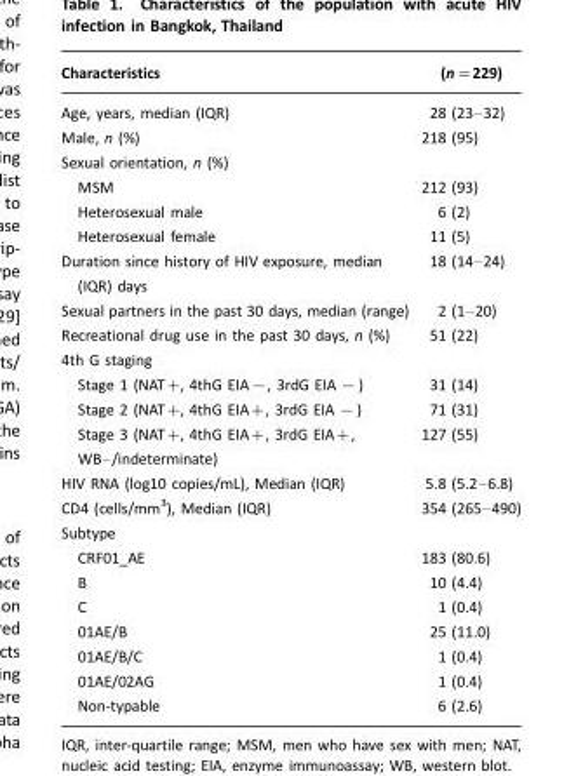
<table><thead><tr><td>Characteristics</td><td>(n=229)</td></tr></thead><tbody><tr><td>Age, years, median (IQR)</td><td>28 (23–32)</td></tr><tr><td>Male, n (%)</td><td>218 (95)</td></tr><tr><td colspan="2">Sexual orientation, n (%)</td></tr><tr><td>MSM</td><td>212 (93)</td></tr><tr><td>Heterosexual male</td><td>6 (2)</td></tr><tr><td>Heterosexual female</td><td>11 (5)</td></tr><tr><td>Duration since history of HIV exposure, median (IQR) days</td><td>18 (14–24)</td></tr><tr><td>Sexual partners in the past 30 days, median (range)</td><td>2 (1–20)</td></tr><tr><td>Recreational drug use in the past 30 days, n (%)</td><td>51 (22)</td></tr><tr><td colspan="2">4th G staging</td></tr><tr><td>Stage 1 (NAT+, 4thG EIA−, 3rdG EIA −)</td><td>31 (14)</td></tr><tr><td>Stage 2 (NAT+, 4thG EIA+, 3rdG EIA −)</td><td>71 (31)</td></tr><tr><td>Stage 3 (NAT+, 4thG EIA+, 3rdG EIA+, WB–/indeterminate)</td><td>127 (55)</td></tr><tr><td>HIV RNA (log10 copies/mL), Median (IQR)</td><td>5.8 (5.2–6.8)</td></tr><tr><td>CD4 (cells/mm<sup>3</sup>), Median (IQR)</td><td>354 (265–490)</td></tr><tr><td colspan="2">Subtype</td></tr><tr><td>CRF01_AE</td><td>183 (80.6)</td></tr><tr><td>B</td><td>10 (4.4)</td></tr><tr><td>C</td><td>1 (0.4)</td></tr><tr><td>01AE/B</td><td>25 (11.0)</td></tr><tr><td>01AE/B/C</td><td>1 (0.4)</td></tr><tr><td>01AE/02AG</td><td>1 (0.4)</td></tr><tr><td>Non-typable</td><td>6 (2.6)</td></tr></tbody></table>